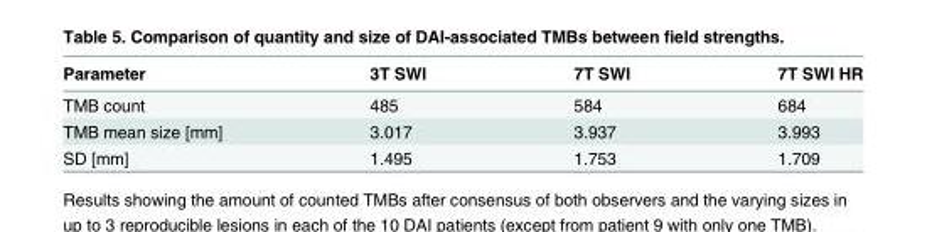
<table><thead><tr><td>Parameter</td><td>3T SWI</td><td>7T SWI</td><td>7T SWI HR</td></tr></thead><tbody><tr><td>TMB count</td><td>485</td><td>584</td><td>684</td></tr><tr><td>TMB mean size [mm]</td><td>3.017</td><td>3.937</td><td>3.993</td></tr><tr><td>SD [mm]</td><td>1.495</td><td>1.753</td><td>1.709</td></tr></tbody></table>